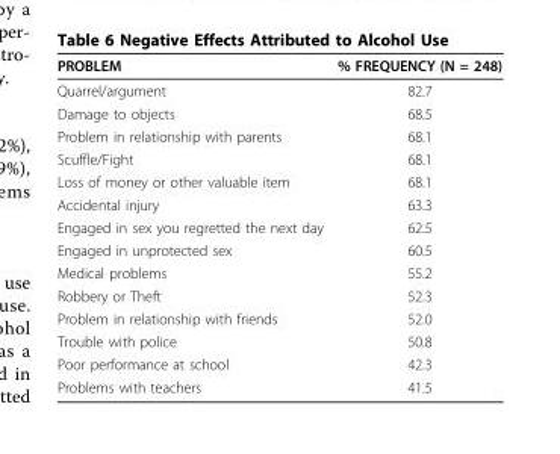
<table><thead><tr><td>PROBLEM</td><td>% FREQUENCY (N = 248)</td></tr></thead><tbody><tr><td>Quarrel/argument</td><td>82.7</td></tr><tr><td>Damage to objects</td><td>68.5</td></tr><tr><td>Problem in relationship with parents</td><td>68.1</td></tr><tr><td>Scuffle/Fight</td><td>68.1</td></tr><tr><td>Loss of money or other valuable item</td><td>68.1</td></tr><tr><td>Accidental injury</td><td>63.3</td></tr><tr><td>Engaged in sex you regretted the next day</td><td>62.5</td></tr><tr><td>Engaged in unprotected sex</td><td>60.5</td></tr><tr><td>Medical problems</td><td>55.2</td></tr><tr><td>Robbery or Theft</td><td>52.3</td></tr><tr><td>Problem in relationship with friends</td><td>52.0</td></tr><tr><td>Trouble with police</td><td>50.8</td></tr><tr><td>Poor performance at school</td><td>42.3</td></tr><tr><td>Problems with teachers</td><td>41.5</td></tr></tbody></table>